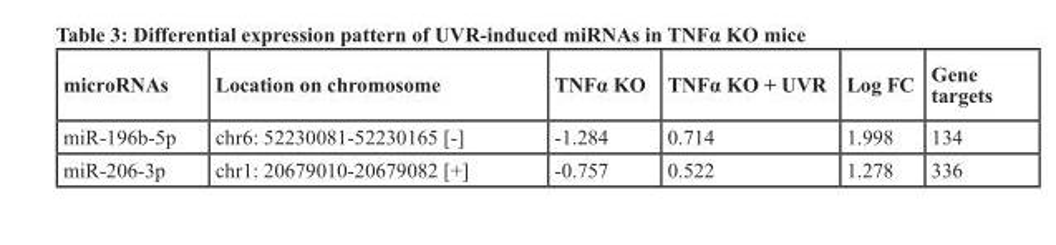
<table><thead><tr><td>microRNAs</td><td>Location on chromosome</td><td>TNFα KO</td><td>TNFα KO + UVR</td><td>Log FC</td><td>Gene targets</td></tr></thead><tbody><tr><td>miR-196b-5p</td><td>chr6: 52230081-52230165 [-]</td><td>-1.284</td><td>0.714</td><td>1.998</td><td>134</td></tr><tr><td>miR-206-3p</td><td>chr1: 20679010-20679082 [+]</td><td>-0.757</td><td>0.522</td><td>1.278</td><td>336</td></tr></tbody></table>